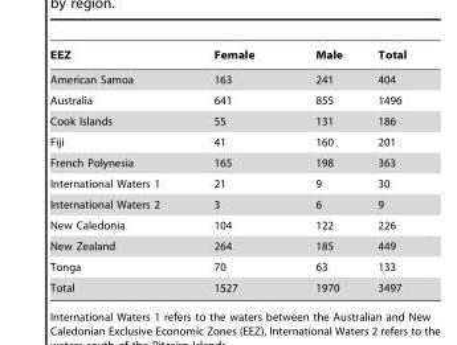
<table><thead><tr><td>EEZ</td><td>Female</td><td>Male</td><td>Total</td></tr></thead><tbody><tr><td>American Samoa</td><td>163</td><td>241</td><td>404</td></tr><tr><td>Australia</td><td>641</td><td>855</td><td>1496</td></tr><tr><td>Cook Islands</td><td>55</td><td>131</td><td>186</td></tr><tr><td>Fiji</td><td>41</td><td>160</td><td>201</td></tr><tr><td>French Polynesia</td><td>165</td><td>198</td><td>363</td></tr><tr><td>International Waters 1</td><td>21</td><td>9</td><td>30</td></tr><tr><td>International Waters 2</td><td>3</td><td>6</td><td>9</td></tr><tr><td>New Caledonia</td><td>104</td><td>122</td><td>226</td></tr><tr><td>New Zealand</td><td>264</td><td>185</td><td>449</td></tr><tr><td>Tonga</td><td>70</td><td>63</td><td>133</td></tr><tr><td>Total</td><td>1527</td><td>1970</td><td>3497</td></tr></tbody></table>